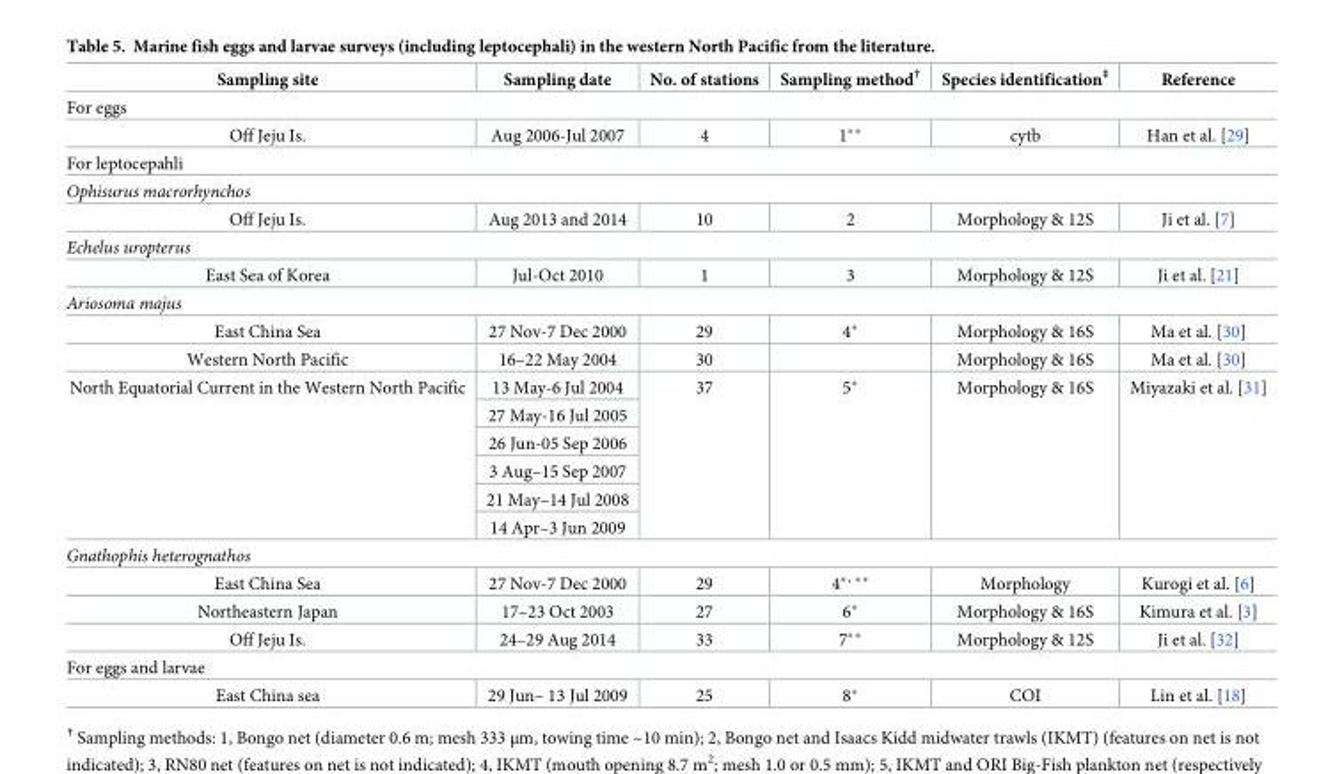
<table><thead><tr><td>Sampling site</td><td>Sampling date</td><td>No. of stations</td><td>Sampling method<sup>†</sup></td><td>Species identification<sup>‡</sup></td><td>Reference</td></tr></thead><tbody><tr><td colspan="6">For eggs</td></tr><tr><td>Off Jeju Is.</td><td>Aug 2006-Jul 2007</td><td>4</td><td>1**</td><td>cytb</td><td>Han et al. [29]</td></tr><tr><td colspan="6">For leptocepahli</td></tr><tr><td colspan="6">Ophisurus macrorhynchos</td></tr><tr><td>Off Jeju Is.</td><td>Aug 2013 and 2014</td><td>10</td><td>2</td><td>Morphology &amp; 12S</td><td>Ji et al. [7]</td></tr><tr><td colspan="6">Echelus uropterus</td></tr><tr><td>East Sea of Korea</td><td>Jul-Oct 2010</td><td>1</td><td>3</td><td>Morphology &amp; 12S</td><td>Ji et al. [21]</td></tr><tr><td colspan="6">Ariosoma majus</td></tr><tr><td>East China Sea</td><td>27 Nov-7 Dec 2000</td><td>29</td><td>4*</td><td>Morphology &amp; 16S</td><td>Ma et al. [30]</td></tr><tr><td>Western North Pacific</td><td>16–22 May 2004</td><td>30</td><td></td><td>Morphology &amp; 16S</td><td>Ma et al. [30]</td></tr><tr><td rowspan="6">North Equatorial Current in the Western North Pacific</td><td>13 May-6 Jul 2004</td><td rowspan="6">37</td><td rowspan="6">5*</td><td rowspan="6">Morphology &amp; 16S</td><td rowspan="6">Miyazaki et al. [31]</td></tr><tr><td>27 May-16 Jul 2005</td></tr><tr><td>26 Jun-05 Sep 2006</td></tr><tr><td>3 Aug–15 Sep 2007</td></tr><tr><td>21 May–14 Jul 2008</td></tr><tr><td>14 Apr–3 Jun 2009</td></tr><tr><td colspan="6">Gnathophis heterognathos</td></tr><tr><td>East China Sea</td><td>27 Nov-7 Dec 2000</td><td>29</td><td>4*<sup>,</sup> **</td><td>Morphology</td><td>Kurogi et al. [6]</td></tr><tr><td>Northeastern Japan</td><td>17–23 Oct 2003</td><td>27</td><td>6*</td><td>Morphology &amp; 16S</td><td>Kimura et al. [3]</td></tr><tr><td>Off Jeju Is.</td><td>24–29 Aug 2014</td><td>33</td><td>7**</td><td>Morphology &amp; 12S</td><td>Ji et al. [32]</td></tr><tr><td colspan="6">For eggs and larvae</td></tr><tr><td>East China sea</td><td>29 Jun– 13 Jul 2009</td><td>25</td><td>8*</td><td>COI</td><td>Lin et al. [18]</td></tr></tbody></table>